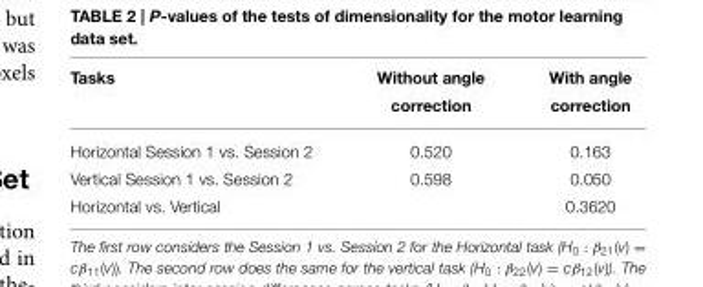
<table><thead><tr><td>Tasks</td><td>Without angle correction</td><td>With angle correction</td></tr></thead><tbody><tr><td>Horizontal Session 1 vs. Session 2</td><td>0.520</td><td>0.163</td></tr><tr><td>Vertical Session 1 vs. Session 2</td><td>0.598</td><td>0.050</td></tr><tr><td>Horizontal vs. Vertical</td><td></td><td>0.3620</td></tr></tbody></table>